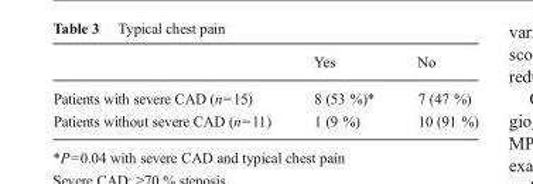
<table><thead><tr><td></td><td>Yes</td><td>No</td></tr></thead><tbody><tr><td>Patients with severe CAD (n=15)</td><td>8 (53 %)*</td><td>7 (47 %)</td></tr><tr><td>Patients without severe CAD (n=11)</td><td>1 (9 %)</td><td>10 (91 %)</td></tr></tbody></table>